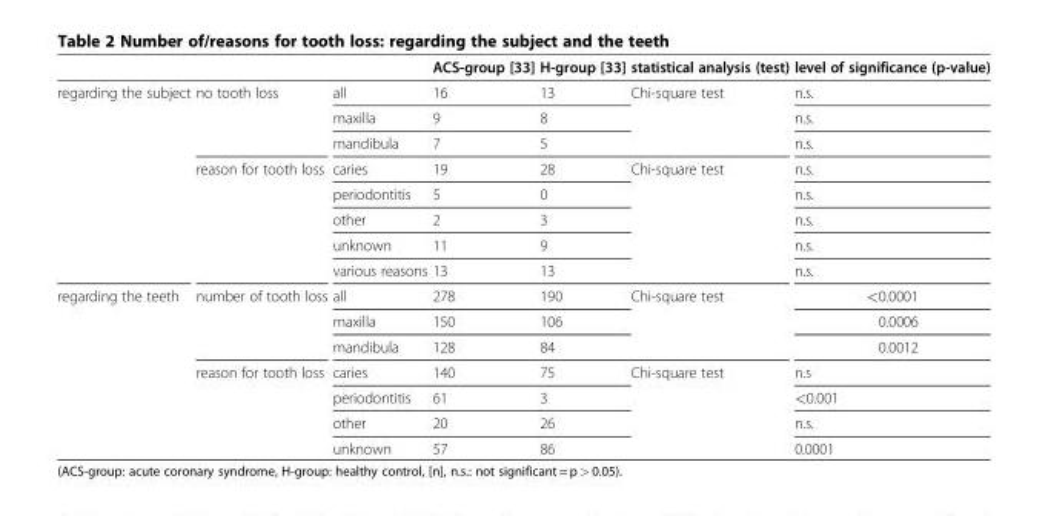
<table><thead><tr><td></td><td></td><td></td><td>ACS-group [33]</td><td>H-group [33]</td><td>statistical analysis (test)</td><td>level of significance (p-value)</td></tr></thead><tbody><tr><td rowspan="8">regarding the subject</td><td rowspan="3">no tooth loss</td><td>all</td><td>16</td><td>13</td><td rowspan="3">Chi-square test</td><td>n.s.</td></tr><tr><td>maxilla</td><td>9</td><td>8</td><td>n.s.</td></tr><tr><td>mandibula</td><td>7</td><td>5</td><td>n.s.</td></tr><tr><td rowspan="5">reason for tooth loss</td><td>caries</td><td>19</td><td>28</td><td rowspan="5">Chi-square test</td><td>n.s.</td></tr><tr><td>periodontitis</td><td>5</td><td>0</td><td>n.s.</td></tr><tr><td>other</td><td>2</td><td>3</td><td>n.s.</td></tr><tr><td>unknown</td><td>11</td><td>9</td><td>n.s.</td></tr><tr><td>various reasons</td><td>13</td><td>13</td><td>n.s.</td></tr><tr><td rowspan="7">regarding the teeth</td><td rowspan="3">number of tooth loss</td><td>all</td><td>278</td><td>190</td><td rowspan="3">Chi-square test</td><td>&lt;0.0001</td></tr><tr><td>maxilla</td><td>150</td><td>106</td><td>0.0006</td></tr><tr><td>mandibula</td><td>128</td><td>84</td><td>0.0012</td></tr><tr><td rowspan="4">reason for tooth loss</td><td>caries</td><td>140</td><td>75</td><td rowspan="4">Chi-square test</td><td>n.s</td></tr><tr><td>periodontitis</td><td>61</td><td>3</td><td>&lt;0.001</td></tr><tr><td>other</td><td>20</td><td>26</td><td>n.s.</td></tr><tr><td>unknown</td><td>57</td><td>86</td><td>0.0001</td></tr></tbody></table>